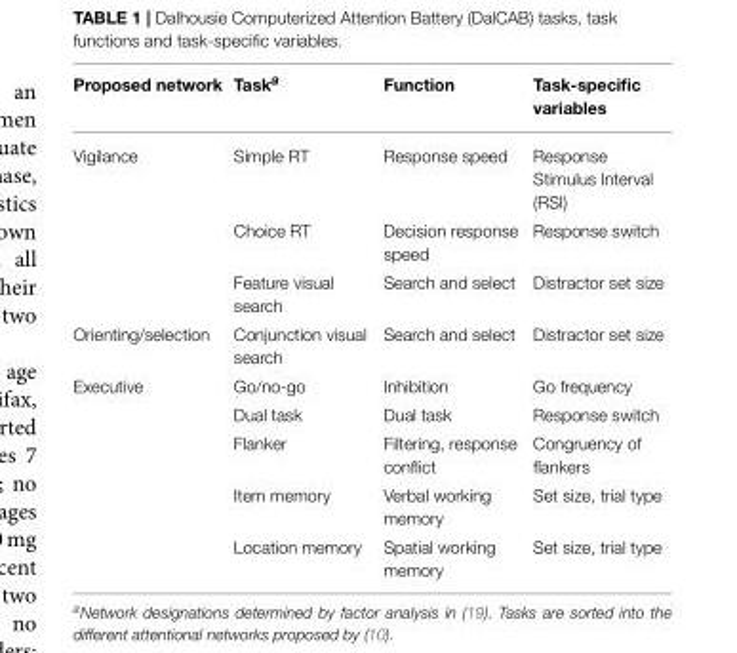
<table><thead><tr><td>Proposed network</td><td>Task<sup>a</sup></td><td>Function</td><td>Task-specific variables</td></tr></thead><tbody><tr><td rowspan="3">Vigilance</td><td>Simple RT</td><td>Response speed</td><td>Response Stimulus Interval (RSI)</td></tr><tr><td>Choice RT</td><td>Decision response speed</td><td>Response switch</td></tr><tr><td>Feature visual search</td><td>Search and select</td><td>Distractor set size</td></tr><tr><td>Orienting/selection</td><td>Conjunction visual search</td><td>Search and select</td><td>Distractor set size</td></tr><tr><td rowspan="5">Executive</td><td>Go/no-go</td><td>Inhibition</td><td>Go frequency</td></tr><tr><td>Dual task</td><td>Dual task</td><td>Response switch</td></tr><tr><td>Flanker</td><td>Filtering, response conflict</td><td>Congruency of flankers</td></tr><tr><td>Item memory</td><td>Verbal working memory</td><td>Set size, trial type</td></tr><tr><td>Location memory</td><td>Spatial working memory</td><td>Set size, trial type</td></tr></tbody></table>